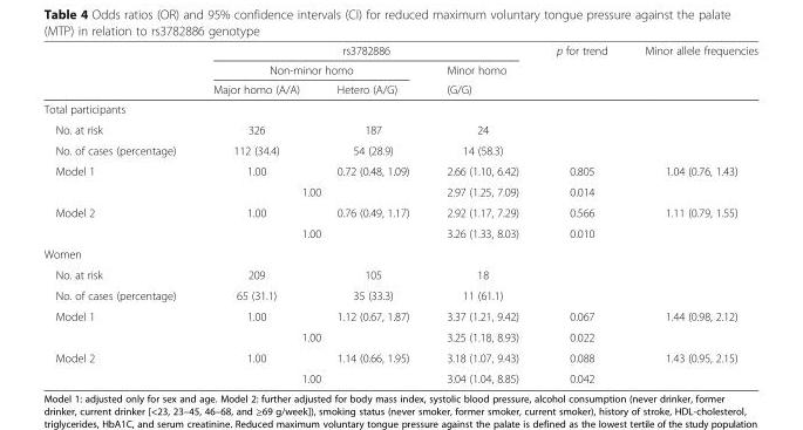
<table><thead><tr><td rowspan="3"></td><td colspan="3">rs3782886</td><td rowspan="3">p for trend</td><td rowspan="3">Minor allele frequencies</td></tr><tr><td colspan="2">Non-minor homo</td><td rowspan="2">Minor homo (G/G)</td></tr><tr><td>Major homo (A/A)</td><td>Hetero (A/G)</td></tr></thead><tbody><tr><td colspan="6">Total participants</td></tr><tr><td>No. at risk</td><td>326</td><td>187</td><td>24</td><td></td><td></td></tr><tr><td>No. of cases (percentage)</td><td>112 (34.4)</td><td>54 (28.9)</td><td>14 (58.3)</td><td></td><td></td></tr><tr><td rowspan="2">Model 1</td><td>1.00</td><td>0.72 (0.48, 1.09)</td><td>2.66 (1.10, 6.42)</td><td>0.805</td><td>1.04 (0.76, 1.43)</td></tr><tr><td colspan="2">1.00</td><td>2.97 (1.25, 7.09)</td><td>0.014</td><td></td></tr><tr><td rowspan="2">Model 2</td><td>1.00</td><td>0.76 (0.49, 1.17)</td><td>2.92 (1.17, 7.29)</td><td>0.566</td><td>1.11 (0.79, 1.55)</td></tr><tr><td colspan="2">1.00</td><td>3.26 (1.33, 8.03)</td><td>0.010</td><td></td></tr><tr><td colspan="6">Women</td></tr><tr><td>No. at risk</td><td>209</td><td>105</td><td>18</td><td></td><td></td></tr><tr><td>No. of cases (percentage)</td><td>65 (31.1)</td><td>35 (33.3)</td><td>11 (61.1)</td><td></td><td></td></tr><tr><td rowspan="2">Model 1</td><td>1.00</td><td>1.12 (0.67, 1.87)</td><td>3.37 (1.21, 9.42)</td><td>0.067</td><td>1.44 (0.98, 2.12)</td></tr><tr><td colspan="2">1.00</td><td>3.25 (1.18, 8.93)</td><td>0.022</td><td></td></tr><tr><td rowspan="2">Model 2</td><td>1.00</td><td>1.14 (0.66, 1.95)</td><td>3.18 (1.07, 9.43)</td><td>0.088</td><td>1.43 (0.95, 2.15)</td></tr><tr><td colspan="2">1.00</td><td>3.04 (1.04, 8.85)</td><td>0.042</td><td></td></tr></tbody></table>